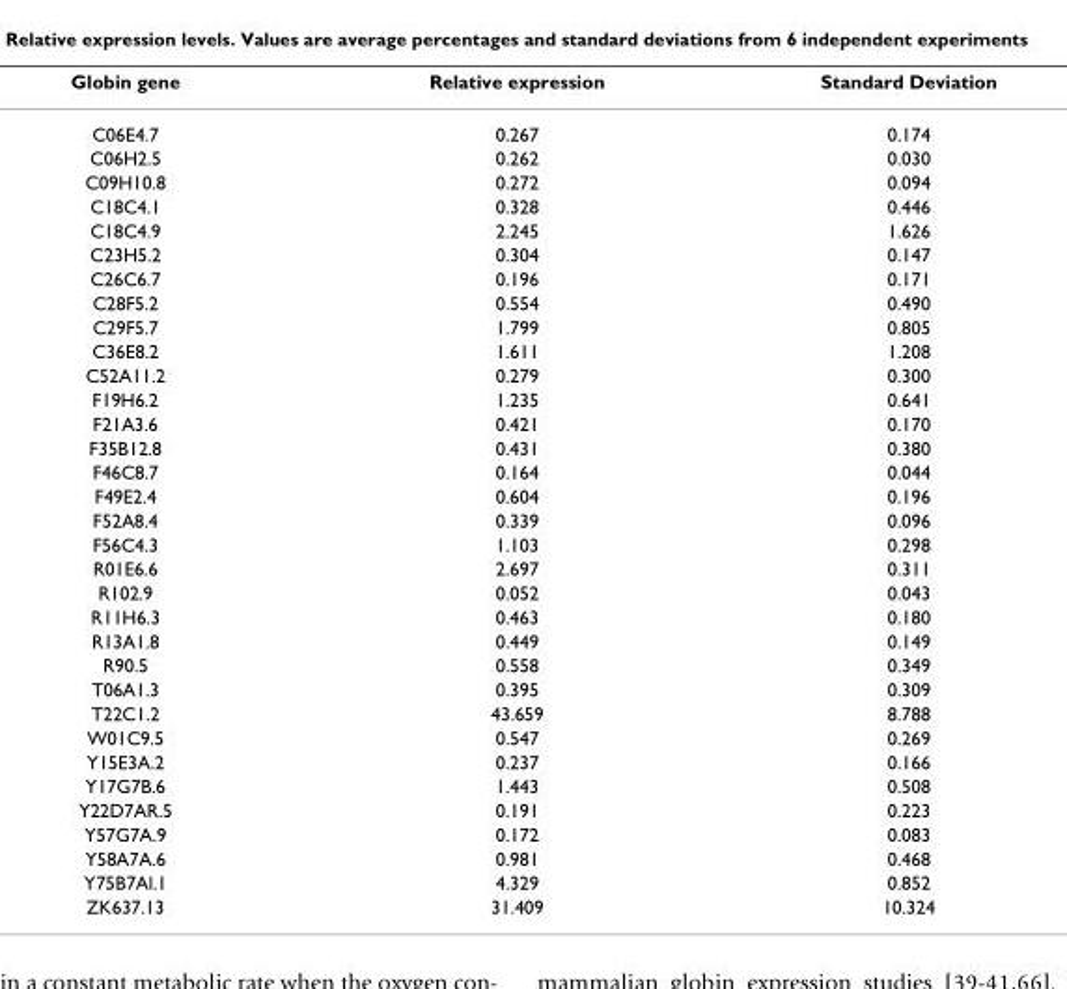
<table><thead><tr><td>Globin gene</td><td>Relative expression</td><td>Standard Deviation</td></tr></thead><tbody><tr><td>C06E4.7</td><td>0.267</td><td>0.174</td></tr><tr><td>C06H2.5</td><td>0.262</td><td>0.030</td></tr><tr><td>C09H10.8</td><td>0.272</td><td>0.094</td></tr><tr><td>C18C4.1</td><td>0.328</td><td>0.446</td></tr><tr><td>C18C4.9</td><td>2.245</td><td>1.626</td></tr><tr><td>C23H5.2</td><td>0.304</td><td>0.147</td></tr><tr><td>C26C6.7</td><td>0.196</td><td>0.171</td></tr><tr><td>C28F5.2</td><td>0.554</td><td>0.490</td></tr><tr><td>C29F5.7</td><td>1.799</td><td>0.805</td></tr><tr><td>C36E8.2</td><td>1.611</td><td>1.208</td></tr><tr><td>C52A11.2</td><td>0.279</td><td>0.300</td></tr><tr><td>F19H6.2</td><td>1.235</td><td>0.641</td></tr><tr><td>F21A3.6</td><td>0.421</td><td>0.170</td></tr><tr><td>F35B12.8</td><td>0.431</td><td>0.380</td></tr><tr><td>F46C8.7</td><td>0.164</td><td>0.044</td></tr><tr><td>F49E2.4</td><td>0.604</td><td>0.196</td></tr><tr><td>F52A8.4</td><td>0.339</td><td>0.096</td></tr><tr><td>F56C4.3</td><td>1.103</td><td>0.298</td></tr><tr><td>R01E6.6</td><td>2.697</td><td>0.311</td></tr><tr><td>R102.9</td><td>0.052</td><td>0.043</td></tr><tr><td>R11H6.3</td><td>0.463</td><td>0.180</td></tr><tr><td>R13A1.8</td><td>0.449</td><td>0.149</td></tr><tr><td>R90.5</td><td>0.558</td><td>0.349</td></tr><tr><td>T06A1.3</td><td>0.395</td><td>0.309</td></tr><tr><td>T22C1.2</td><td>43.659</td><td>8.788</td></tr><tr><td>W01C9.5</td><td>0.547</td><td>0.269</td></tr><tr><td>Y15E3A.2</td><td>0.237</td><td>0.166</td></tr><tr><td>Y17G7B.6</td><td>1.443</td><td>0.508</td></tr><tr><td>Y22D7AR.5</td><td>0.191</td><td>0.223</td></tr><tr><td>Y57G7A.9</td><td>0.172</td><td>0.083</td></tr><tr><td>Y58A7A.6</td><td>0.981</td><td>0.468</td></tr><tr><td>Y75B7Al.1</td><td>4.329</td><td>0.852</td></tr><tr><td>ZK637.13</td><td>31.409</td><td>10.324</td></tr></tbody></table>